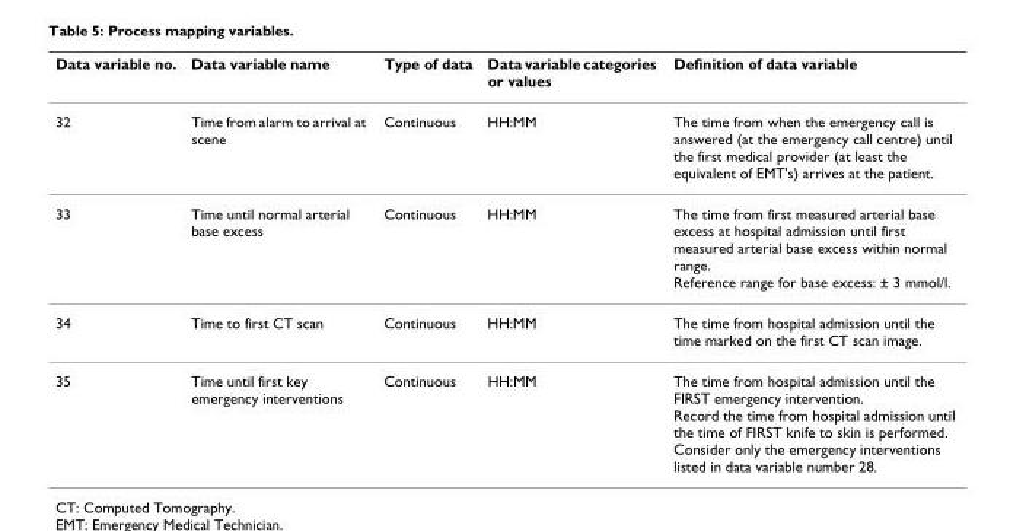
<table><thead><tr><td>Data variable no.</td><td>Data variable name</td><td>Type of data</td><td>Data variable categories or values</td><td>Definition of data variable</td></tr></thead><tbody><tr><td>32</td><td>Time from alarm to arrival at scene</td><td>Continuous</td><td>HH:MM</td><td>The time from when the emergency call is answered (at the emergency call centre) until the first medical provider (at least the equivalent of EMT&#x27;s) arrives at the patient.</td></tr><tr><td>33</td><td>Time until normal arterial base excess</td><td>Continuous</td><td>HH:MM</td><td>The time from first measured arterial base excess at hospital admission until first measured arterial base excess within normal range. Reference range for base excess: ± 3 mmol/l.</td></tr><tr><td>34</td><td>Time to first CT scan</td><td>Continuous</td><td>HH:MM</td><td>The time from hospital admission until the time marked on the first CT scan image.</td></tr><tr><td>35</td><td>Time until first key emergency interventions</td><td>Continuous</td><td>HH:MM</td><td>The time from hospital admission until the FIRST emergency intervention. Record the time from hospital admission until the time of FIRST knife to skin is performed. Consider only the emergency interventions listed in data variable number 28.</td></tr></tbody></table>